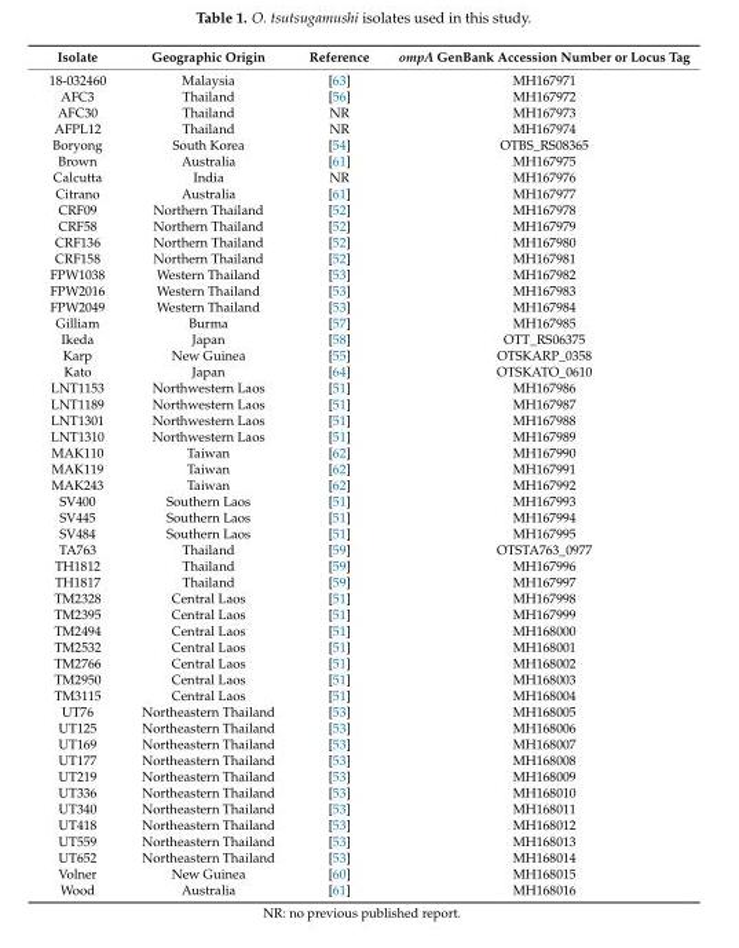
<table><thead><tr><td>Isolate</td><td>Geographic Origin</td><td>Reference</td><td>ompA GenBank Accession Number or Locus Tag</td></tr></thead><tbody><tr><td>18-032460</td><td>Malaysia</td><td>[63]</td><td>MH167971</td></tr><tr><td>AFC3</td><td>Thailand</td><td>[56]</td><td>MH167972</td></tr><tr><td>AFC30</td><td>Thailand</td><td>NR</td><td>MH167973</td></tr><tr><td>AFPL12</td><td>Thailand</td><td>NR</td><td>MH167974</td></tr><tr><td>Boryong</td><td>South Korea</td><td>[54]</td><td>OTBS_RS08365</td></tr><tr><td>Brown</td><td>Australia</td><td>[61]</td><td>MH167975</td></tr><tr><td>Calcutta</td><td>India</td><td>NR</td><td>MH167976</td></tr><tr><td>Citrano</td><td>Australia</td><td>[61]</td><td>MH167977</td></tr><tr><td>CRF09</td><td>Northern Thailand</td><td>[52]</td><td>MH167978</td></tr><tr><td>CRF58</td><td>Northern Thailand</td><td>[52]</td><td>MH167979</td></tr><tr><td>CRF136</td><td>Northern Thailand</td><td>[52]</td><td>MH167980</td></tr><tr><td>CRF158</td><td>Northern Thailand</td><td>[52]</td><td>MH167981</td></tr><tr><td>FPW1038</td><td>Western Thailand</td><td>[53]</td><td>MH167982</td></tr><tr><td>FPW2016</td><td>Western Thailand</td><td>[53]</td><td>MH167983</td></tr><tr><td>FPW2049</td><td>Western Thailand</td><td>[53]</td><td>MH167984</td></tr><tr><td>Gilliam</td><td>Burma</td><td>[57]</td><td>MH167985</td></tr><tr><td>Ikeda</td><td>Japan</td><td>[58]</td><td>OTT_RS06375</td></tr><tr><td>Karp</td><td>New Guinea</td><td>[55]</td><td>OTSKARP_0358</td></tr><tr><td>Kato</td><td>Japan</td><td>[64]</td><td>OTSKATO_0610</td></tr><tr><td>LNT1153</td><td>Northwestern Laos</td><td>[51]</td><td>MH167986</td></tr><tr><td>LNT1189</td><td>Northwestern Laos</td><td>[51]</td><td>MH167987</td></tr><tr><td>LNT1301</td><td>Northwestern Laos</td><td>[51]</td><td>MH167988</td></tr><tr><td>LNT1310</td><td>Northwestern Laos</td><td>[51]</td><td>MH167989</td></tr><tr><td>MAK110</td><td>Taiwan</td><td>[62]</td><td>MH167990</td></tr><tr><td>MAK119</td><td>Taiwan</td><td>[62]</td><td>MH167991</td></tr><tr><td>MAK243</td><td>Taiwan</td><td>[62]</td><td>MH167992</td></tr><tr><td>SV400</td><td>Southern Laos</td><td>[51]</td><td>MH167993</td></tr><tr><td>SV445</td><td>Southern Laos</td><td>[51]</td><td>MH167994</td></tr><tr><td>SV484</td><td>Southern Laos</td><td>[51]</td><td>MH167995</td></tr><tr><td>TA763</td><td>Thailand</td><td>[59]</td><td>OTSTA763_0977</td></tr><tr><td>TH1812</td><td>Thailand</td><td>[59]</td><td>MH167996</td></tr><tr><td>TH1817</td><td>Thailand</td><td>[59]</td><td>MH167997</td></tr><tr><td>TM2328</td><td>Central Laos</td><td>[51]</td><td>MH167998</td></tr><tr><td>TM2395</td><td>Central Laos</td><td>[51]</td><td>MH167999</td></tr><tr><td>TM2494</td><td>Central Laos</td><td>[51]</td><td>MH168000</td></tr><tr><td>TM2532</td><td>Central Laos</td><td>[51]</td><td>MH168001</td></tr><tr><td>TM2766</td><td>Central Laos</td><td>[51]</td><td>MH168002</td></tr><tr><td>TM2950</td><td>Central Laos</td><td>[51]</td><td>MH168003</td></tr><tr><td>TM3115</td><td>Central Laos</td><td>[51]</td><td>MH168004</td></tr><tr><td>UT76</td><td>Northeastern Thailand</td><td>[53]</td><td>MH168005</td></tr><tr><td>UT125</td><td>Northeastern Thailand</td><td>[53]</td><td>MH168006</td></tr><tr><td>UT169</td><td>Northeastern Thailand</td><td>[53]</td><td>MH168007</td></tr><tr><td>UT177</td><td>Northeastern Thailand</td><td>[53]</td><td>MH168008</td></tr><tr><td>UT219</td><td>Northeastern Thailand</td><td>[53]</td><td>MH168009</td></tr><tr><td>UT336</td><td>Northeastern Thailand</td><td>[53]</td><td>MH168010</td></tr><tr><td>UT340</td><td>Northeastern Thailand</td><td>[53]</td><td>MH168011</td></tr><tr><td>UT418</td><td>Northeastern Thailand</td><td>[53]</td><td>MH168012</td></tr><tr><td>UT559</td><td>Northeastern Thailand</td><td>[53]</td><td>MH168013</td></tr><tr><td>UT652</td><td>Northeastern Thailand</td><td>[53]</td><td>MH168014</td></tr><tr><td>Volner</td><td>New Guinea</td><td>[60]</td><td>MH168015</td></tr><tr><td>Wood</td><td>Australia</td><td>[61]</td><td>MH168016</td></tr></tbody></table>